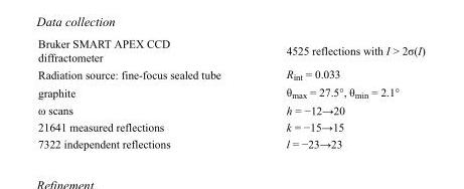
<table><tbody><tr><td>Bruker SMART APEX CCD diffractometer</td><td>4525 reflections with I &gt; 2σ(I)</td></tr><tr><td>Radiation source: fine-focus sealed tube</td><td>R<sub>int</sub> = 0.033</td></tr><tr><td>graphite</td><td>θ<sub>max</sub> = 27.5°, θ<sub>min</sub> = 2.1°</td></tr><tr><td>ω scans</td><td>h = −12→20</td></tr><tr><td>21641 measured reflections</td><td>k = −15→15</td></tr><tr><td>7322 independent reflections</td><td>l = −23→23</td></tr></tbody></table>